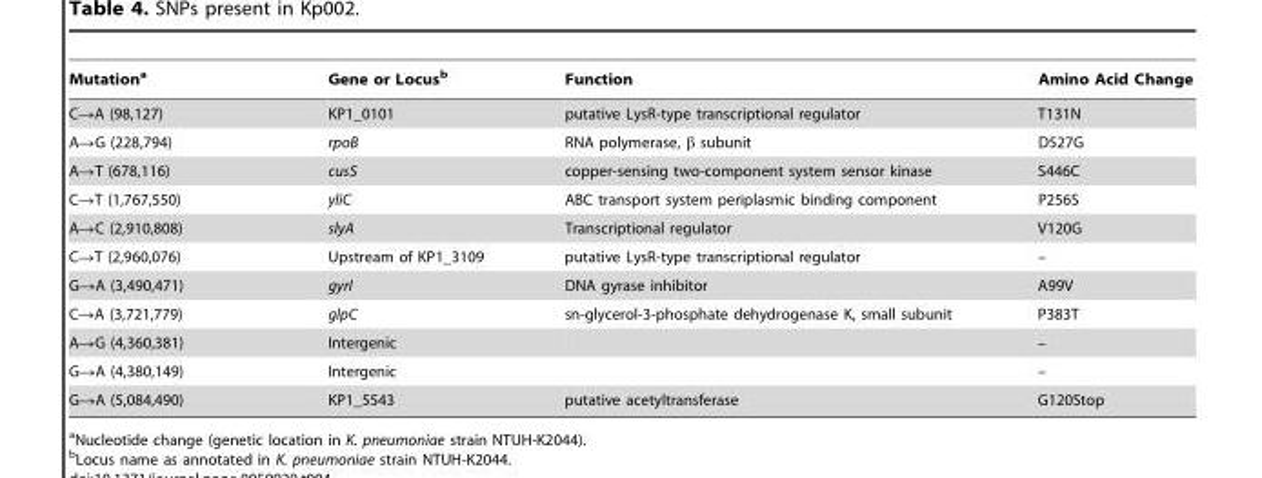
<table><thead><tr><td>Mutation<sup>a</sup></td><td>Gene or Locus<sup>b</sup></td><td>Function</td><td>Amino Acid Change</td></tr></thead><tbody><tr><td>C→A (98,127)</td><td>KP1_0101</td><td>putative LysR-type transcriptional regulator</td><td>T131N</td></tr><tr><td>A→G (228,794)</td><td>rpoB</td><td>RNA polymerase, β subunit</td><td>D527G</td></tr><tr><td>A→T (678,116)</td><td>cusS</td><td>copper-sensing two-component system sensor kinase</td><td>S446C</td></tr><tr><td>C→T (1,767,550)</td><td>yliC</td><td>ABC transport system periplasmic binding component</td><td>P256S</td></tr><tr><td>A→C (2,910,808)</td><td>slyA</td><td>Transcriptional regulator</td><td>V120G</td></tr><tr><td>C→T (2,960,076)</td><td>Upstream of KP1_3109</td><td>putative LysR-type transcriptional regulator</td><td>–</td></tr><tr><td>G→A (3,490,471)</td><td>gyrI</td><td>DNA gyrase inhibitor</td><td>A99V</td></tr><tr><td>C→A (3,721,779)</td><td>glpC</td><td>sn-glycerol-3-phosphate dehydrogenase K, small subunit</td><td>P383T</td></tr><tr><td>A→G (4,360,381)</td><td>Intergenic</td><td></td><td>–</td></tr><tr><td>G→A (4,380,149)</td><td>Intergenic</td><td></td><td>–</td></tr><tr><td>G→A (5,084,490)</td><td>KP1_5543</td><td>putative acetyltransferase</td><td>G120Stop</td></tr></tbody></table>